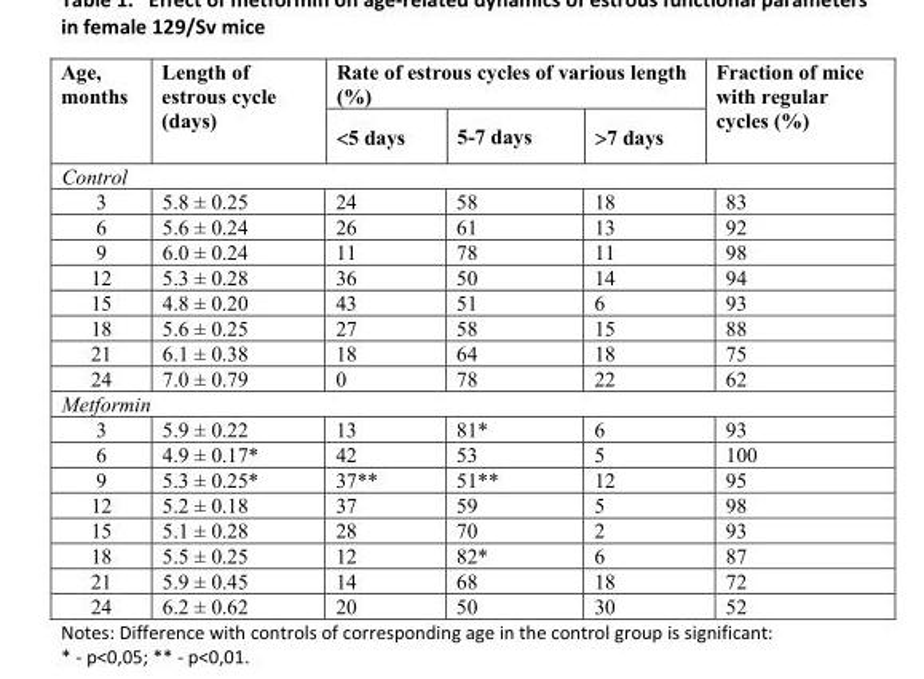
<table><thead><tr><td rowspan="2">Age, months</td><td rowspan="2">Length of estrous cycle (days)</td><td colspan="3">Rate of estrous cycles of various length (%)</td><td rowspan="2">Fraction of mice with regular cycles (%)</td></tr><tr><td>&lt;5 days</td><td>5-7 days</td><td>&gt;7 days</td></tr></thead><tbody><tr><td colspan="6">Control</td></tr><tr><td>3</td><td>5.8 ± 0.25</td><td>24</td><td>58</td><td>18</td><td>83</td></tr><tr><td>6</td><td>5.6 ± 0.24</td><td>26</td><td>61</td><td>13</td><td>92</td></tr><tr><td>9</td><td>6.0 ± 0.24</td><td>11</td><td>78</td><td>11</td><td>98</td></tr><tr><td>12</td><td>5.3 ± 0.28</td><td>36</td><td>50</td><td>14</td><td>94</td></tr><tr><td>15</td><td>4.8 ± 0.20</td><td>43</td><td>51</td><td>6</td><td>93</td></tr><tr><td>18</td><td>5.6 ± 0.25</td><td>27</td><td>58</td><td>15</td><td>88</td></tr><tr><td>21</td><td>6.1 ± 0.38</td><td>18</td><td>64</td><td>18</td><td>75</td></tr><tr><td>24</td><td>7.0 ± 0.79</td><td>0</td><td>78</td><td>22</td><td>62</td></tr><tr><td colspan="6">Metformin</td></tr><tr><td>3</td><td>5.9 ± 0.22</td><td>13</td><td>81*</td><td>6</td><td>93</td></tr><tr><td>6</td><td>4.9 ± 0.17*</td><td>42</td><td>53</td><td>5</td><td>100</td></tr><tr><td>9</td><td>5.3 ± 0.25*</td><td>37**</td><td>51**</td><td>12</td><td>95</td></tr><tr><td>12</td><td>5.2 ± 0.18</td><td>37</td><td>59</td><td>5</td><td>98</td></tr><tr><td>15</td><td>5.1 ± 0.28</td><td>28</td><td>70</td><td>2</td><td>93</td></tr><tr><td>18</td><td>5.5 ± 0.25</td><td>12</td><td>82*</td><td>6</td><td>87</td></tr><tr><td>21</td><td>5.9 ± 0.45</td><td>14</td><td>68</td><td>18</td><td>72</td></tr><tr><td>24</td><td>6.2 ± 0.62</td><td>20</td><td>50</td><td>30</td><td>52</td></tr></tbody></table>